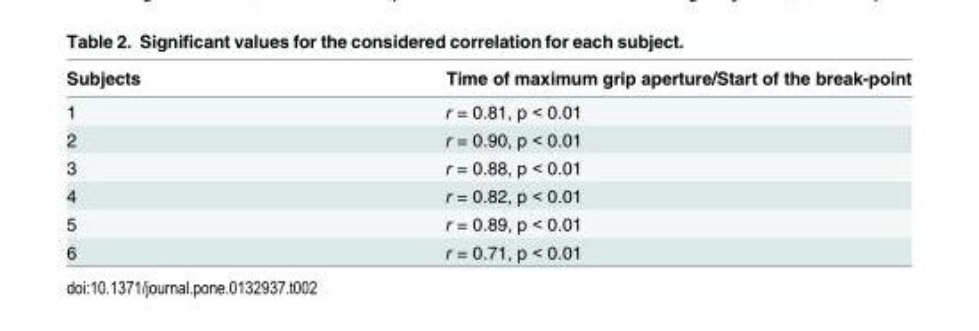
<table><thead><tr><td>Subjects</td><td>Time of maximum grip aperture/Start of the break-point</td></tr></thead><tbody><tr><td>1</td><td>r = 0.81, p &lt; 0.01</td></tr><tr><td>2</td><td>r = 0.90, p &lt; 0.01</td></tr><tr><td>3</td><td>r = 0.88, p &lt; 0.01</td></tr><tr><td>4</td><td>r = 0.82, p &lt; 0.01</td></tr><tr><td>5</td><td>r = 0.89, p &lt; 0.01</td></tr><tr><td>6</td><td>r = 0.71, p &lt; 0.01</td></tr></tbody></table>